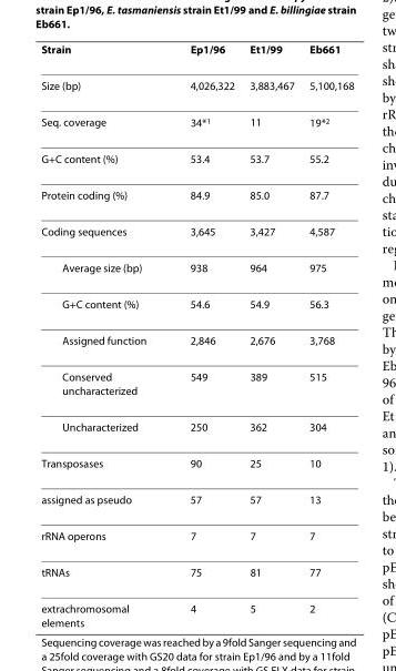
<table><thead><tr><td>Strain</td><td>Ep1/96</td><td>Et1/99</td><td>Eb661</td></tr></thead><tbody><tr><td>Size (bp)</td><td>4,026,322</td><td>3,883,467</td><td>5,100,168</td></tr><tr><td>Seq. coverage</td><td>34*<sup>1</sup></td><td>11</td><td>19*<sup>2</sup></td></tr><tr><td>G+C content (%)</td><td>53.4</td><td>53.7</td><td>55.2</td></tr><tr><td>Protein coding (%)</td><td>84.9</td><td>85.0</td><td>87.7</td></tr><tr><td>Coding sequences</td><td>3,645</td><td>3,427</td><td>4,587</td></tr><tr><td>Average size (bp)</td><td>938</td><td>964</td><td>975</td></tr><tr><td>G+C content (%)</td><td>54.6</td><td>54.9</td><td>56.3</td></tr><tr><td>Assigned function</td><td>2,846</td><td>2,676</td><td>3,768</td></tr><tr><td>Conserved uncharacterized</td><td>549</td><td>389</td><td>515</td></tr><tr><td>Uncharacterized</td><td>250</td><td>362</td><td>304</td></tr><tr><td>Transposases</td><td>90</td><td>25</td><td>10</td></tr><tr><td>assigned as pseudo</td><td>57</td><td>57</td><td>13</td></tr><tr><td>rRNA operons</td><td>7</td><td>7</td><td>7</td></tr><tr><td>tRNAs</td><td>75</td><td>81</td><td>77</td></tr><tr><td>extrachromosomal elements</td><td>4</td><td>5</td><td>2</td></tr></tbody></table>